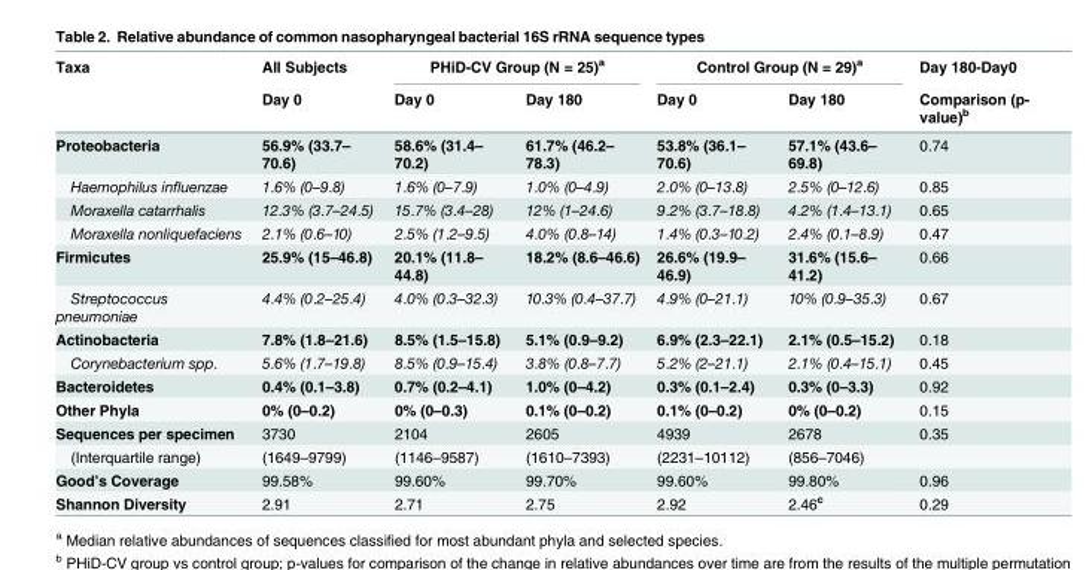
<table><thead><tr><td rowspan="2">Taxa</td><td rowspan="2">All Subjects Day 0</td><td colspan="2">PHiD-CV Group (N = 25)<sup>a</sup></td><td colspan="2">Control Group (N = 29)<sup>a</sup></td><td rowspan="2">Day 180-Day0 Comparison (p- value)<sup>b</sup></td></tr><tr><td>Day 0</td><td>Day 180</td><td>Day 0</td><td>Day 180</td></tr></thead><tbody><tr><td>Proteobacteria</td><td>56.9% (33.7– 70.6)</td><td>58.6% (31.4– 70.2)</td><td>61.7% (46.2– 78.3)</td><td>53.8% (36.1– 70.6)</td><td>57.1% (43.6– 69.8)</td><td>0.74</td></tr><tr><td>Haemophilus influenzae</td><td>1.6% (0–9.8)</td><td>1.6% (0–7.9)</td><td>1.0% (0–4.9)</td><td>2.0% (0–13.8)</td><td>2.5% (0–12.6)</td><td>0.85</td></tr><tr><td>Moraxella catarrhalis</td><td>12.3% (3.7–24.5)</td><td>15.7% (3.4–28)</td><td>12% (1–24.6)</td><td>9.2% (3.7–18.8)</td><td>4.2% (1.4–13.1)</td><td>0.65</td></tr><tr><td>Moraxella nonliquefaciens</td><td>2.1% (0.6–10)</td><td>2.5% (1.2–9.5)</td><td>4.0% (0.8–14)</td><td>1.4% (0.3–10.2)</td><td>2.4% (0.1–8.9)</td><td>0.47</td></tr><tr><td>Firmicutes</td><td>25.9% (15–46.8)</td><td>20.1% (11.8– 44.8)</td><td>18.2% (8.6–46.6)</td><td>26.6% (19.9– 46.9)</td><td>31.6% (15.6– 41.2)</td><td>0.66</td></tr><tr><td>Streptococcus pneumoniae</td><td>4.4% (0.2–25.4)</td><td>4.0% (0.3–32.3)</td><td>10.3% (0.4–37.7)</td><td>4.9% (0–21.1)</td><td>10% (0.9–35.3)</td><td>0.67</td></tr><tr><td>Actinobacteria</td><td>7.8% (1.8–21.6)</td><td>8.5% (1.5–15.8)</td><td>5.1% (0.9–9.2)</td><td>6.9% (2.3–22.1)</td><td>2.1% (0.5–15.2)</td><td>0.18</td></tr><tr><td>Corynebacterium spp.</td><td>5.6% (1.7–19.8)</td><td>8.5% (0.9–15.4)</td><td>3.8% (0.8–7.7)</td><td>5.2% (2–21.1)</td><td>2.1% (0.4–15.1)</td><td>0.45</td></tr><tr><td>Bacteroidetes</td><td>0.4% (0.1–3.8)</td><td>0.7% (0.2–4.1)</td><td>1.0% (0–4.2)</td><td>0.3% (0.1–2.4)</td><td>0.3% (0–3.3)</td><td>0.92</td></tr><tr><td>Other Phyla</td><td>0% (0–0.2)</td><td>0% (0–0.3)</td><td>0.1% (0–0.2)</td><td>0.1% (0–0.2)</td><td>0% (0–0.2)</td><td>0.15</td></tr><tr><td>Sequences per specimen</td><td>3730</td><td>2104</td><td>2605</td><td>4939</td><td>2678</td><td>0.35</td></tr><tr><td>(Interquartile range)</td><td>(1649–9799)</td><td>(1146–9587)</td><td>(1610–7393)</td><td>(2231–10112)</td><td>(856–7046)</td><td></td></tr><tr><td>Good’s Coverage</td><td>99.58%</td><td>99.60%</td><td>99.70%</td><td>99.60%</td><td>99.80%</td><td>0.96</td></tr><tr><td>Shannon Diversity</td><td>2.91</td><td>2.71</td><td>2.75</td><td>2.92</td><td>2.46<sup>c</sup></td><td>0.29</td></tr></tbody></table>